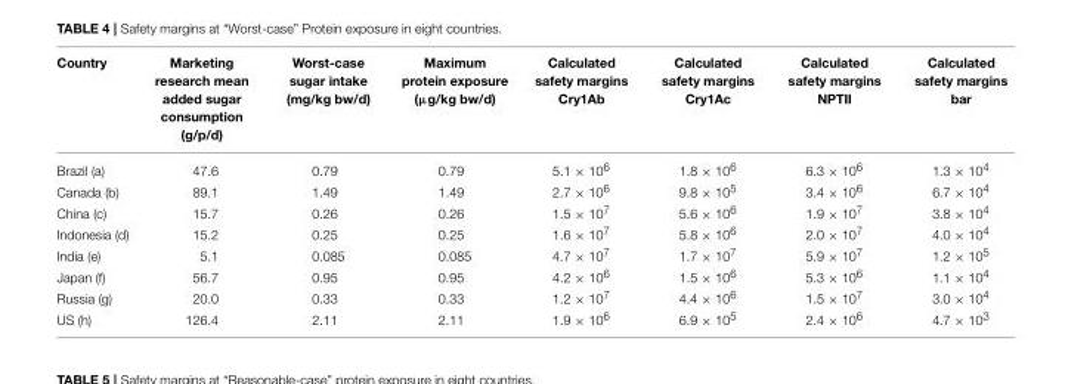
<table><thead><tr><td>Country</td><td>Marketing research mean added sugar consumption (g/p/d)</td><td>Worst-case sugar intake (mg/kg bw/d)</td><td>Maximum protein exposure (µg/kg bw/d)</td><td>Calculated safety margins Cry1Ab</td><td>Calculated safety margins Cry1Ac</td><td>Calculated safety margins NPTII</td><td>Calculated safety margins bar</td></tr></thead><tbody><tr><td>Brazil (a)</td><td>47.6</td><td>0.79</td><td>0.79</td><td>5.1 × 10<sup>6</sup></td><td>1.8 × 10<sup>6</sup></td><td>6.3 × 10<sup>6</sup></td><td>1.3 × 10<sup>4</sup></td></tr><tr><td>Canada (b)</td><td>89.1</td><td>1.49</td><td>1.49</td><td>2.7 × 10<sup>6</sup></td><td>9.8 × 10<sup>5</sup></td><td>3.4 × 10<sup>6</sup></td><td>6.7 × 10<sup>4</sup></td></tr><tr><td>China (c)</td><td>15.7</td><td>0.26</td><td>0.26</td><td>1.5 × 10<sup>7</sup></td><td>5.6 × 10<sup>6</sup></td><td>1.9 × 10<sup>7</sup></td><td>3.8 × 10<sup>4</sup></td></tr><tr><td>Indonesia (d)</td><td>15.2</td><td>0.25</td><td>0.25</td><td>1.6 × 10<sup>7</sup></td><td>5.8 × 10<sup>6</sup></td><td>2.0 × 10<sup>7</sup></td><td>4.0 × 10<sup>4</sup></td></tr><tr><td>India (e)</td><td>5.1</td><td>0.085</td><td>0.085</td><td>4.7 × 10<sup>7</sup></td><td>1.7 × 10<sup>7</sup></td><td>5.9 × 10<sup>7</sup></td><td>1.2 × 10<sup>5</sup></td></tr><tr><td>Japan (f)</td><td>56.7</td><td>0.95</td><td>0.95</td><td>4.2 × 10<sup>6</sup></td><td>1.5 × 10<sup>6</sup></td><td>5.3 × 10<sup>6</sup></td><td>1.1 × 10<sup>4</sup></td></tr><tr><td>Russia (g)</td><td>20.0</td><td>0.33</td><td>0.33</td><td>1.2 × 10<sup>7</sup></td><td>4.4 × 10<sup>6</sup></td><td>1.5 × 10<sup>7</sup></td><td>3.0 × 10<sup>4</sup></td></tr><tr><td>US (h)</td><td>126.4</td><td>2.11</td><td>2.11</td><td>1.9 × 10<sup>6</sup></td><td>6.9 × 10<sup>5</sup></td><td>2.4 × 10<sup>6</sup></td><td>4.7 × 10<sup>3</sup></td></tr></tbody></table>